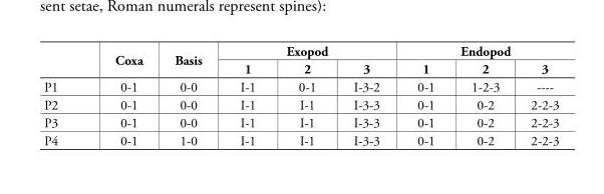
<table><thead><tr><td rowspan="2"></td><td rowspan="2">Coxa</td><td rowspan="2">Basis</td><td colspan="3">Exopod</td><td colspan="3">Endopod</td></tr><tr><td>1</td><td>2</td><td>3</td><td>1</td><td>2</td><td>3</td></tr></thead><tbody><tr><td>P1</td><td>0-1</td><td>0-0</td><td>I-1</td><td>0-1</td><td>I-3-2</td><td>0-1</td><td>1-2-3</td><td>----</td></tr><tr><td>P2</td><td>0-1</td><td>0-0</td><td>I-1</td><td>I-1</td><td>I-3-3</td><td>0-1</td><td>0-2</td><td>2-2-3</td></tr><tr><td>P3</td><td>0-1</td><td>0-0</td><td>I-1</td><td>I-1</td><td>I-3-3</td><td>0-1</td><td>0-2</td><td>2-2-3</td></tr><tr><td>P4</td><td>0-1</td><td>1-0</td><td>I-1</td><td>I-1</td><td>I-3-3</td><td>0-1</td><td>0-2</td><td>2-2-3</td></tr></tbody></table>